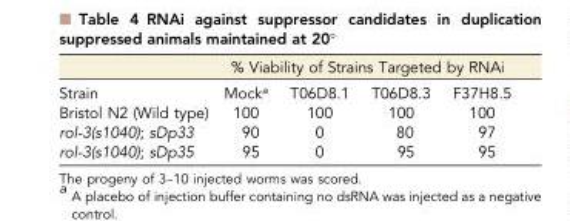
<table><thead><tr><td rowspan="2">Strain</td><td colspan="4">% Viability of Strains Targeted by RNAi</td></tr><tr><td>Mock<sup>a</sup></td><td>T06D8.1</td><td>T06D8.3</td><td>F37H8.5</td></tr></thead><tbody><tr><td>Bristol N2 (Wild type)</td><td>100</td><td>100</td><td>100</td><td>100</td></tr><tr><td>rol-3(s1040); sDp33</td><td>90</td><td>0</td><td>80</td><td>97</td></tr><tr><td>rol-3(s1040); sDp35</td><td>95</td><td>0</td><td>95</td><td>95</td></tr></tbody></table>